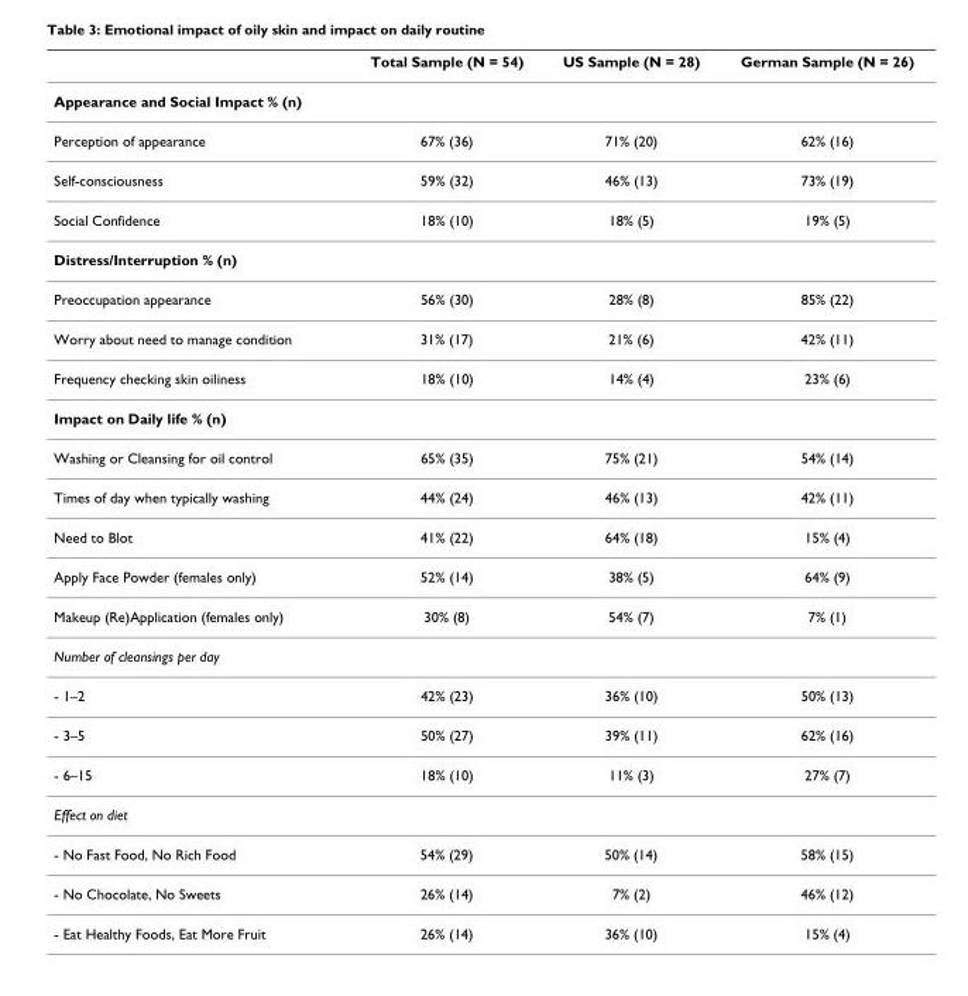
<table><thead><tr><td></td><td>Total Sample (N = 54)</td><td>US Sample (N = 28)</td><td>German Sample (N = 26)</td></tr></thead><tbody><tr><td colspan="4">Appearance and Social Impact % (n)</td></tr><tr><td>Perception of appearance</td><td>67% (36)</td><td>71% (20)</td><td>62% (16)</td></tr><tr><td>Self-consciousness</td><td>59% (32)</td><td>46% (13)</td><td>73% (19)</td></tr><tr><td>Social Confidence</td><td>18% (10)</td><td>18% (5)</td><td>19% (5)</td></tr><tr><td colspan="4">Distress/Interruption % (n)</td></tr><tr><td>Preoccupation appearance</td><td>56% (30)</td><td>28% (8)</td><td>85% (22)</td></tr><tr><td>Worry about need to manage condition</td><td>31% (17)</td><td>21% (6)</td><td>42% (11)</td></tr><tr><td>Frequency checking skin oiliness</td><td>18% (10)</td><td>14% (4)</td><td>23% (6)</td></tr><tr><td colspan="4">Impact on Daily life % (n)</td></tr><tr><td>Washing or Cleansing for oil control</td><td>65% (35)</td><td>75% (21)</td><td>54% (14)</td></tr><tr><td>Times of day when typically washing</td><td>44% (24)</td><td>46% (13)</td><td>42% (11)</td></tr><tr><td>Need to Blot</td><td>41% (22)</td><td>64% (18)</td><td>15% (4)</td></tr><tr><td>Apply Face Powder (females only)</td><td>52% (14)</td><td>38% (5)</td><td>64% (9)</td></tr><tr><td>Makeup (Re)Application (females only)</td><td>30% (8)</td><td>54% (7)</td><td>7% (1)</td></tr><tr><td colspan="4">Number of cleansings per day</td></tr><tr><td>- 1–2</td><td>42% (23)</td><td>36% (10)</td><td>50% (13)</td></tr><tr><td>- 3–5</td><td>50% (27)</td><td>39% (11)</td><td>62% (16)</td></tr><tr><td>- 6–15</td><td>18% (10)</td><td>11% (3)</td><td>27% (7)</td></tr><tr><td colspan="4">Effect on diet</td></tr><tr><td>- No Fast Food, No Rich Food</td><td>54% (29)</td><td>50% (14)</td><td>58% (15)</td></tr><tr><td>- No Chocolate, No Sweets</td><td>26% (14)</td><td>7% (2)</td><td>46% (12)</td></tr><tr><td>- Eat Healthy Foods, Eat More Fruit</td><td>26% (14)</td><td>36% (10)</td><td>15% (4)</td></tr></tbody></table>